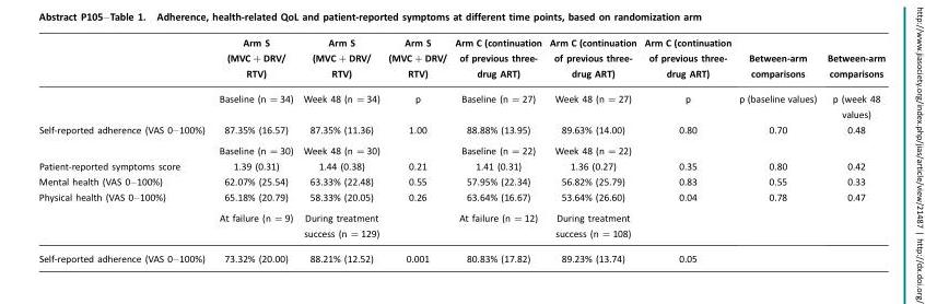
<table><thead><tr><td></td><td>Arm S (MVC+DRV/ RTV)</td><td>Arm S (MVC+DRV/ RTV)</td><td>Arm S (MVC+DRV/ RTV)</td><td>Arm C (continuation of previous three- drug ART)</td><td>Arm C (continuation of previous three- drug ART)</td><td>Arm C (continuation of previous three- drug ART)</td><td>Between-arm comparisons</td><td>Between-arm comparisons</td></tr></thead><tbody><tr><td></td><td>Baseline (n =34)</td><td>Week 48 (n =34)</td><td>p</td><td>Baseline (n =27)</td><td>Week 48 (n =27)</td><td>p</td><td>p (baseline values)</td><td>p (week 48 values)</td></tr><tr><td rowspan="2">Self-reported adherence (VAS 0–100%)</td><td>87.35% (16.57)</td><td>87.35% (11.36)</td><td>1.00</td><td>88.88% (13.95)</td><td>89.63% (14.00)</td><td>0.80</td><td>0.70</td><td>0.48</td></tr><tr><td>Baseline (n =30)</td><td>Week 48 (n =30)</td><td></td><td>Baseline (n =22)</td><td>Week 48 (n =22)</td><td></td><td></td><td></td></tr><tr><td>Patient-reported symptoms score</td><td>1.39 (0.31)</td><td>1.44 (0.38)</td><td>0.21</td><td>1.41 (0.31)</td><td>1.36 (0.27)</td><td>0.35</td><td>0.80</td><td>0.42</td></tr><tr><td>Mental health (VAS 0–100%)</td><td>62.07% (25.54)</td><td>63.33% (22.48)</td><td>0.55</td><td>57.95% (22.34)</td><td>56.82% (25.79)</td><td>0.83</td><td>0.55</td><td>0.33</td></tr><tr><td rowspan="2">Physical health (VAS 0–100%)</td><td>65.18% (20.79)</td><td>58.33% (20.05)</td><td>0.26</td><td>63.64% (16.67)</td><td>53.64% (26.60)</td><td>0.04</td><td>0.78</td><td>0.47</td></tr><tr><td>At failure (n =9)</td><td>During treatment success (n =129)</td><td></td><td>At failure (n =12)</td><td>During treatment success (n =108)</td><td></td><td></td><td></td></tr><tr><td>Self-reported adherence (VAS 0–100%)</td><td>73.32% (20.00)</td><td>88.21% (12.52)</td><td>0.001</td><td>80.83% (17.82)</td><td>89.23% (13.74)</td><td>0.05</td><td></td><td></td></tr></tbody></table>